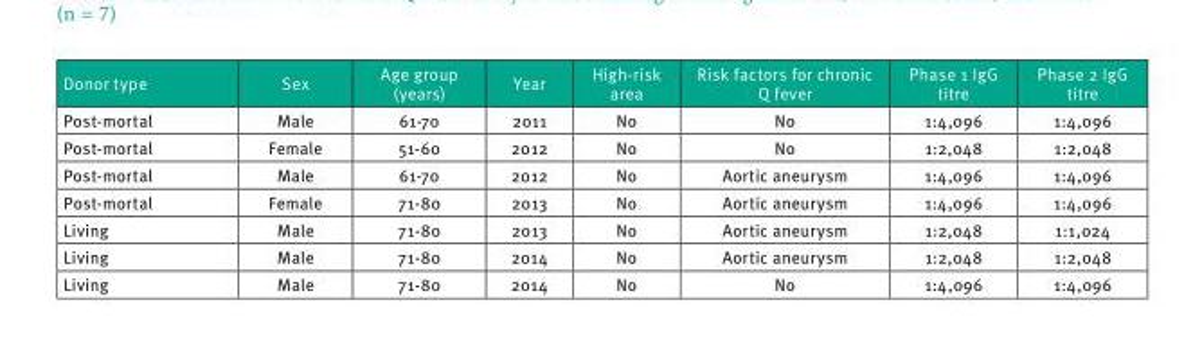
<table><thead><tr><td>Donor type</td><td>Sex</td><td>Age group (years)</td><td>Year</td><td>High-risk area</td><td>Risk factors for chronic Q fever</td><td>Phase 1 IgG titre</td><td>Phase 2 IgG titre</td></tr></thead><tbody><tr><td>Post-mortal</td><td>Male</td><td>61-70</td><td>2011</td><td>No</td><td>No</td><td>1:4,096</td><td>1:4,096</td></tr><tr><td>Post-mortal</td><td>Female</td><td>51-60</td><td>2012</td><td>No</td><td>No</td><td>1:2,048</td><td>1:2,048</td></tr><tr><td>Post-mortal</td><td>Male</td><td>61-70</td><td>2012</td><td>No</td><td>Aortic aneurysm</td><td>1:4,096</td><td>1:4,096</td></tr><tr><td>Post-mortal</td><td>Female</td><td>71-80</td><td>2013</td><td>No</td><td>Aortic aneurysm</td><td>1:4,096</td><td>1:4,096</td></tr><tr><td>Living</td><td>Male</td><td>71-80</td><td>2013</td><td>No</td><td>Aortic aneurysm</td><td>1:2,048</td><td>1:1,024</td></tr><tr><td>Living</td><td>Male</td><td>71-80</td><td>2014</td><td>No</td><td>Aortic aneurysm</td><td>1:2,048</td><td>1:2,048</td></tr><tr><td>Living</td><td>Male</td><td>71-80</td><td>2014</td><td>No</td><td>No</td><td>1:4,096</td><td>1:4,096</td></tr></tbody></table>